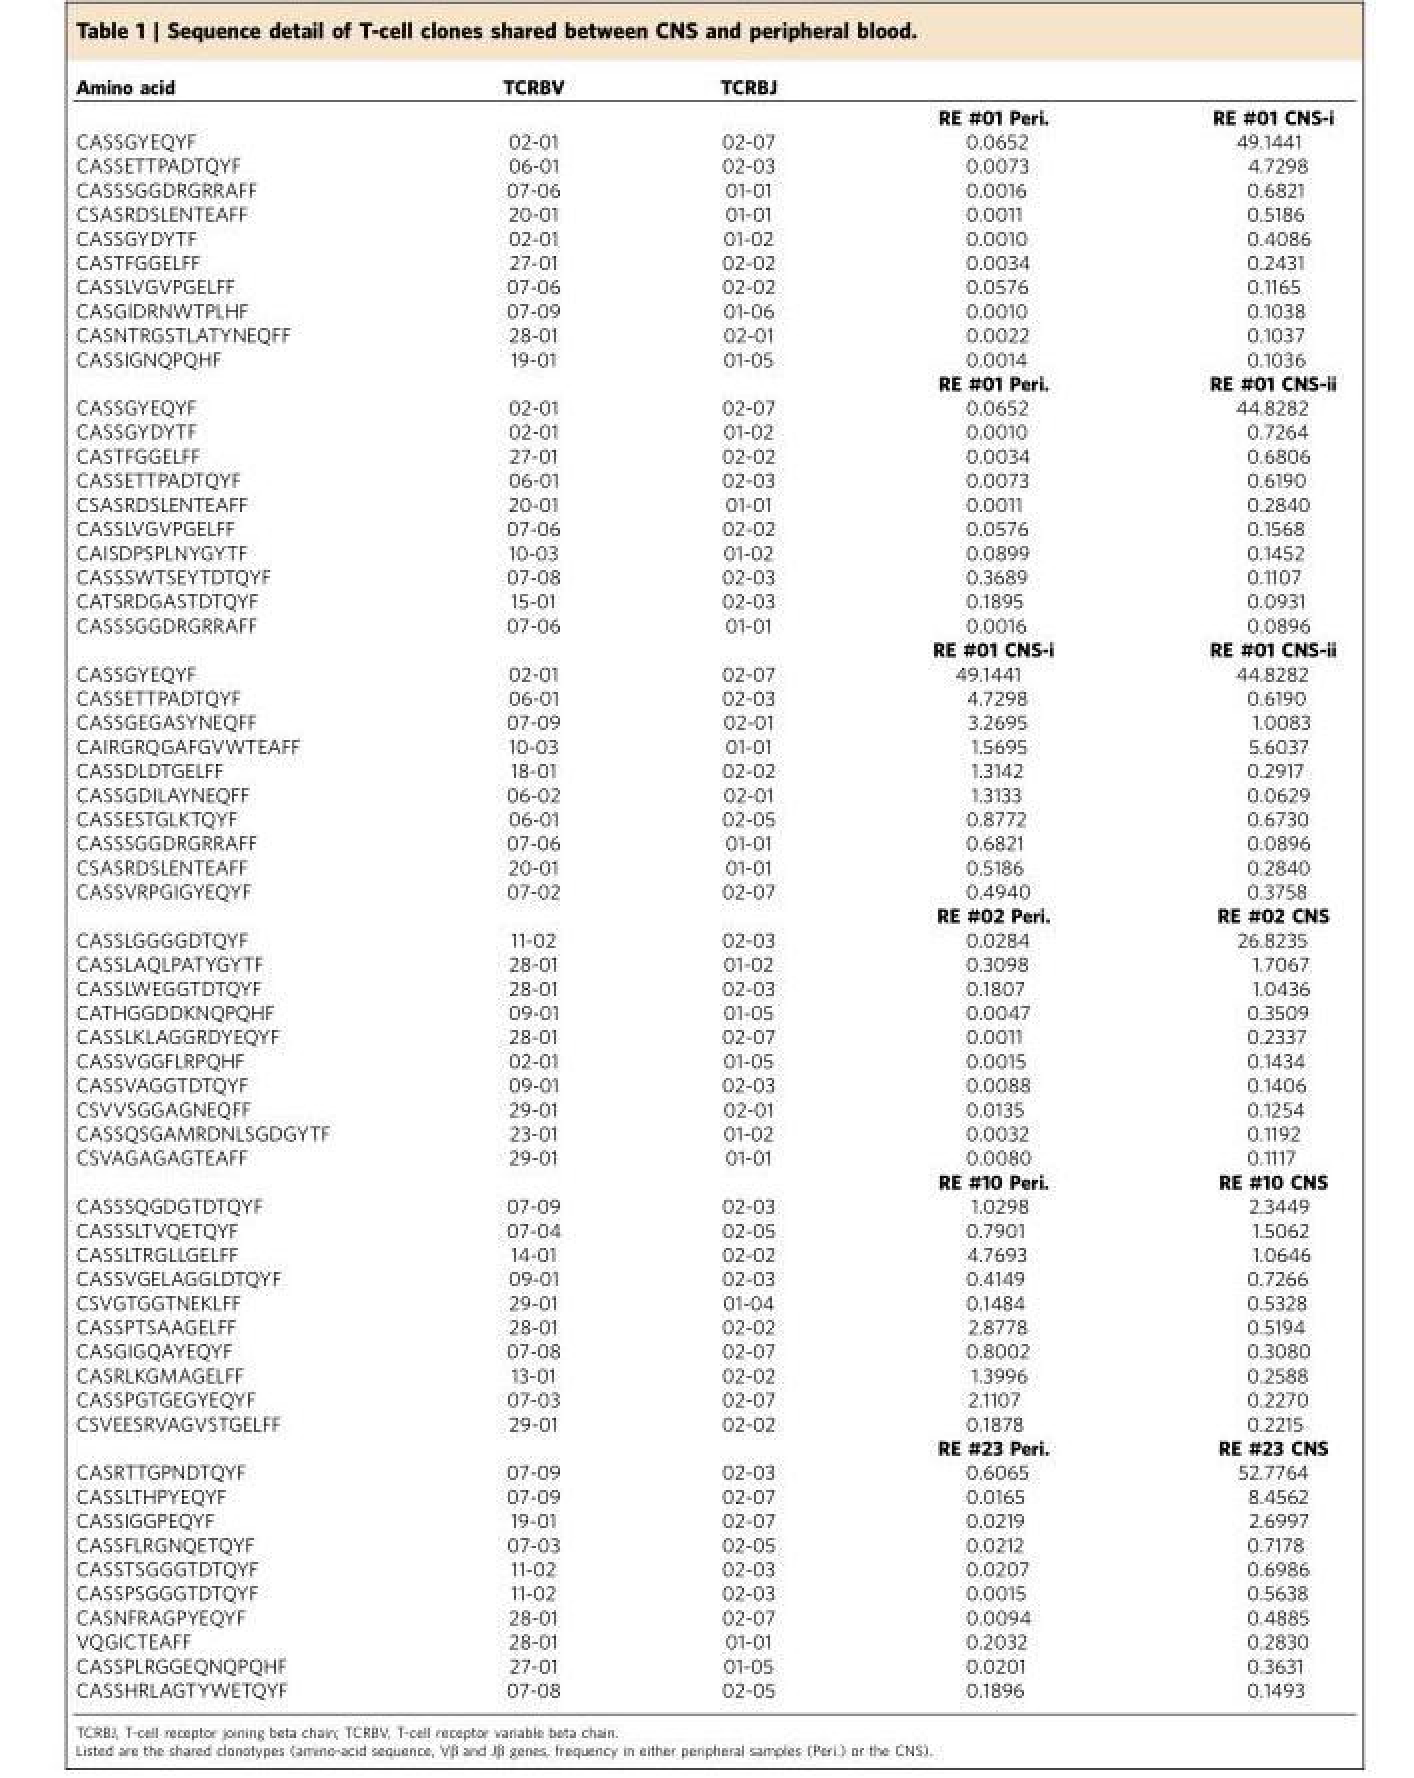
<table><thead><tr><td>Amino acid</td><td>TCRBV</td><td>TCRBJ</td><td></td><td></td></tr></thead><tbody><tr><td></td><td></td><td></td><td>RE #01 Peri.</td><td>RE #01 CNS-i</td></tr><tr><td>CASSGYEQYF</td><td>02-01</td><td>02-07</td><td>0.0652</td><td>49.1441</td></tr><tr><td>CASSETTPADTQYF</td><td>06-01</td><td>02-03</td><td>0.0073</td><td>4.7298</td></tr><tr><td>CASSSGGDRGRRAFF</td><td>07-06</td><td>01-01</td><td>0.0016</td><td>0.6821</td></tr><tr><td>CSASRDSLENTEAFF</td><td>20-01</td><td>01-01</td><td>0.0011</td><td>0.5186</td></tr><tr><td>CASSGYDYTF</td><td>02-01</td><td>01-02</td><td>0.0010</td><td>0.4086</td></tr><tr><td>CASTFGGELFF</td><td>27-01</td><td>02-02</td><td>0.0034</td><td>0.2431</td></tr><tr><td>CASSLVGVPGELFF</td><td>07-06</td><td>02-02</td><td>0.0576</td><td>0.1165</td></tr><tr><td>CASGIDRNWTPLHF</td><td>07-09</td><td>01-06</td><td>0.0010</td><td>0.1038</td></tr><tr><td>CASNTRGSTLATYNEQFF</td><td>28-01</td><td>02-01</td><td>0.0022</td><td>0.1037</td></tr><tr><td rowspan="2">CASSIGNQPQHF</td><td>19-01</td><td>01-05</td><td>0.0014</td><td>0.1036</td></tr><tr><td></td><td></td><td>RE #01 Peri.</td><td>RE #01 CNS-ii</td></tr><tr><td>CASSGYEQYF</td><td>02-01</td><td>02-07</td><td>0.0652</td><td>44.8282</td></tr><tr><td>CASSGYDYTF</td><td>02-01</td><td>01-02</td><td>0.0010</td><td>0.7264</td></tr><tr><td>CASTFGGELFF</td><td>27-01</td><td>02-02</td><td>0.0034</td><td>0.6806</td></tr><tr><td>CASSETTPADTQYF</td><td>06-01</td><td>02-03</td><td>0.0073</td><td>0.6190</td></tr><tr><td>CSASRDSLENTEAFF</td><td>20-01</td><td>01-01</td><td>0.0011</td><td>0.2840</td></tr><tr><td>CASSLVGVPGELFF</td><td>07-06</td><td>02-02</td><td>0.0576</td><td>0.1568</td></tr><tr><td>CAISDPSPLNYGYTF</td><td>10-03</td><td>01-02</td><td>0.0899</td><td>0.1452</td></tr><tr><td>CASSSWTSEYTDTQYF</td><td>07-08</td><td>02-03</td><td>0.3689</td><td>0.1107</td></tr><tr><td>CATSRDGASTDTQYF</td><td>15-01</td><td>02-03</td><td>0.1895</td><td>0.0931</td></tr><tr><td rowspan="2">CASSSGGDRGRRAFF</td><td>07-06</td><td>01-01</td><td>0.0016</td><td>0.0896</td></tr><tr><td></td><td></td><td>RE #01 CNS-i</td><td>RE #01 CNS-ii</td></tr><tr><td>CASSGYEQYF</td><td>02-01</td><td>02-07</td><td>49.1441</td><td>44.8282</td></tr><tr><td>CASSETTPADTQYF</td><td>06-01</td><td>02-03</td><td>4.7298</td><td>0.6190</td></tr><tr><td>CASSGEGASYNEQFF</td><td>07-09</td><td>02-01</td><td>3.2695</td><td>1.0083</td></tr><tr><td>CAIRGRQGAFGVWTEAFF</td><td>10-03</td><td>01-01</td><td>1.5695</td><td>5.6037</td></tr><tr><td>CASSDLDTGELFF</td><td>18-01</td><td>02-02</td><td>1.3142</td><td>0.2917</td></tr><tr><td>CASSGDILAYNEQFF</td><td>06-02</td><td>02-01</td><td>1.3133</td><td>0.0629</td></tr><tr><td>CASSESTGLKTQYF</td><td>06-01</td><td>02-05</td><td>0.8772</td><td>0.6730</td></tr><tr><td>CASSSGGDRGRRAFF</td><td>07-06</td><td>01-01</td><td>0.6821</td><td>0.0896</td></tr><tr><td>CSASRDSLENTEAFF</td><td>20-01</td><td>01-01</td><td>0.5186</td><td>0.2840</td></tr><tr><td rowspan="2">CASSVRPGIGYEQYF</td><td>07-02</td><td>02-07</td><td>0.4940</td><td>0.3758</td></tr><tr><td></td><td></td><td>RE #02 Peri.</td><td>RE #02 CNS</td></tr><tr><td>CASSLGGGGDTQYF</td><td>11-02</td><td>02-03</td><td>0.0284</td><td>26.8235</td></tr><tr><td>CASSLAQLPATYGYTF</td><td>28-01</td><td>01-02</td><td>0.3098</td><td>1.7067</td></tr><tr><td>CASSLWEGGTDTQYF</td><td>28-01</td><td>02-03</td><td>0.1807</td><td>1.0436</td></tr><tr><td>CATHGGDDKNQPQHF</td><td>09-01</td><td>01-05</td><td>0.0047</td><td>0.3509</td></tr><tr><td>CASSLKLAGGRDYEQYF</td><td>28-01</td><td>02-07</td><td>0.0011</td><td>0.2337</td></tr><tr><td>CASSVGGFLRPQHF</td><td>02-01</td><td>01-05</td><td>0.0015</td><td>0.1434</td></tr><tr><td>CASSVAGGTDTQYF</td><td>09-01</td><td>02-03</td><td>0.0088</td><td>0.1406</td></tr><tr><td>CSVVSGGAGNEQFF</td><td>29-01</td><td>02-01</td><td>0.0135</td><td>0.1254</td></tr><tr><td>CASSQSGAMRDNLSGDGYTF</td><td>23-01</td><td>01-02</td><td>0.0032</td><td>0.1192</td></tr><tr><td rowspan="2">CSVAGAGAGTEAFF</td><td>29-01</td><td>01-01</td><td>0.0080</td><td>0.1117</td></tr><tr><td></td><td></td><td>RE #10 Peri.</td><td>RE #10 CNS</td></tr><tr><td>CASSSQGDGTDTQYF</td><td>07-09</td><td>02-03</td><td>1.0298</td><td>2.3449</td></tr><tr><td>CASSSLTVQETQYF</td><td>07-04</td><td>02-05</td><td>0.7901</td><td>1.5062</td></tr><tr><td>CASSLTRGLLGELFF</td><td>14-01</td><td>02-02</td><td>4.7693</td><td>1.0646</td></tr><tr><td>CASSVGELAGGLDTQYF</td><td>09-01</td><td>02-03</td><td>0.4149</td><td>0.7266</td></tr><tr><td>CSVGTGGTNEKLFF</td><td>29-01</td><td>01-04</td><td>0.1484</td><td>0.5328</td></tr><tr><td>CASSPTSAAGELFF</td><td>28-01</td><td>02-02</td><td>2.8778</td><td>0.5194</td></tr><tr><td>CASGIGQAYEQYF</td><td>07-08</td><td>02-07</td><td>0.8002</td><td>0.3080</td></tr><tr><td>CASRLKGMAGELFF</td><td>13-01</td><td>02-02</td><td>1.3996</td><td>0.2588</td></tr><tr><td>CASSPGTGEGYEQYF</td><td>07-03</td><td>02-07</td><td>2.1107</td><td>0.2270</td></tr><tr><td rowspan="2">CSVEESRVAGVSTGELFF</td><td>29-01</td><td>02-02</td><td>0.1878</td><td>0.2215</td></tr><tr><td></td><td></td><td>RE #23 Peri.</td><td>RE #23 CNS</td></tr><tr><td>CASRTTGPNDTQYF</td><td>07-09</td><td>02-03</td><td>0.6065</td><td>52.7764</td></tr><tr><td>CASSLTHPYEQYF</td><td>07-09</td><td>02-07</td><td>0.0165</td><td>8.4562</td></tr><tr><td>CASSIGGPEQYF</td><td>19-01</td><td>02-07</td><td>0.0219</td><td>2.6997</td></tr><tr><td>CASSFLRGNQETQYF</td><td>07-03</td><td>02-05</td><td>0.0212</td><td>0.7178</td></tr><tr><td>CASSTSGGGTDTQYF</td><td>11-02</td><td>02-03</td><td>0.0207</td><td>0.6986</td></tr><tr><td>CASSPSGGGTDTQYF</td><td>11-02</td><td>02-03</td><td>0.0015</td><td>0.5638</td></tr><tr><td>CASNFRAGPYEQYF</td><td>28-01</td><td>02-07</td><td>0.0094</td><td>0.4885</td></tr><tr><td>VQGICTEAFF</td><td>28-01</td><td>01-01</td><td>0.2032</td><td>0.2830</td></tr><tr><td>CASSPLRGGEQNQPQHF</td><td>27-01</td><td>01-05</td><td>0.0201</td><td>0.3631</td></tr><tr><td>CASSHRLAGTYWETQYF</td><td>07-08</td><td>02-05</td><td>0.1896</td><td>0.1493</td></tr></tbody></table>